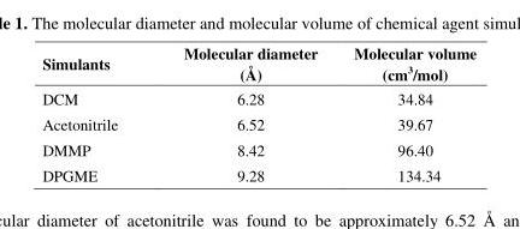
<table><thead><tr><td>Simulants</td><td>Molecular diameter (Å)</td><td>Molecular volume (cm<sup>3</sup>/mol)</td></tr></thead><tbody><tr><td>DCM</td><td>6.28</td><td>34.84</td></tr><tr><td>Acetonitrile</td><td>6.52</td><td>39.67</td></tr><tr><td>DMMP</td><td>8.42</td><td>96.40</td></tr><tr><td>DPGME</td><td>9.28</td><td>134.34</td></tr></tbody></table>